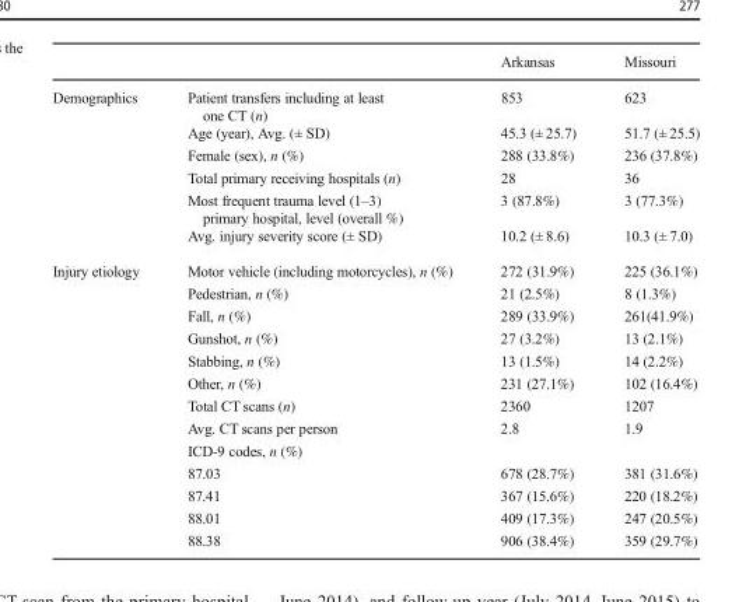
<table><thead><tr><td></td><td></td><td>Arkansas</td><td>Missouri</td></tr></thead><tbody><tr><td rowspan="6">Demographics</td><td>Patient transfers including at least one CT (n)</td><td>853</td><td>623</td></tr><tr><td>Age (year), Avg. (± SD)</td><td>45.3 (± 25.7)</td><td>51.7 (± 25.5)</td></tr><tr><td>Female (sex), n (%)</td><td>288 (33.8%)</td><td>236 (37.8%)</td></tr><tr><td>Total primary receiving hospitals (n)</td><td>28</td><td>36</td></tr><tr><td>Most frequent trauma level (1–3) primary hospital, level (overall %)</td><td>3 (87.8%)</td><td>3 (77.3%)</td></tr><tr><td>Avg. injury severity score (± SD)</td><td>10.2 (± 8.6)</td><td>10.3 (± 7.0)</td></tr><tr><td rowspan="13">Injury etiology</td><td>Motor vehicle (including motorcycles), n (%)</td><td>272 (31.9%)</td><td>225 (36.1%)</td></tr><tr><td>Pedestrian, n (%)</td><td>21 (2.5%)</td><td>8 (1.3%)</td></tr><tr><td>Fall, n (%)</td><td>289 (33.9%)</td><td>261(41.9%)</td></tr><tr><td>Gunshot, n (%)</td><td>27 (3.2%)</td><td>13 (2.1%)</td></tr><tr><td>Stabbing, n (%)</td><td>13 (1.5%)</td><td>14 (2.2%)</td></tr><tr><td>Other, n (%)</td><td>231 (27.1%)</td><td>102 (16.4%)</td></tr><tr><td>Total CT scans (n)</td><td>2360</td><td>1207</td></tr><tr><td>Avg. CT scans per person</td><td>2.8</td><td>1.9</td></tr><tr><td>ICD-9 codes, n (%)</td><td></td><td></td></tr><tr><td>87.03</td><td>678 (28.7%)</td><td>381 (31.6%)</td></tr><tr><td>87.41</td><td>367 (15.6%)</td><td>220 (18.2%)</td></tr><tr><td>88.01</td><td>409 (17.3%)</td><td>247 (20.5%)</td></tr><tr><td>88.38</td><td>906 (38.4%)</td><td>359 (29.7%)</td></tr></tbody></table>